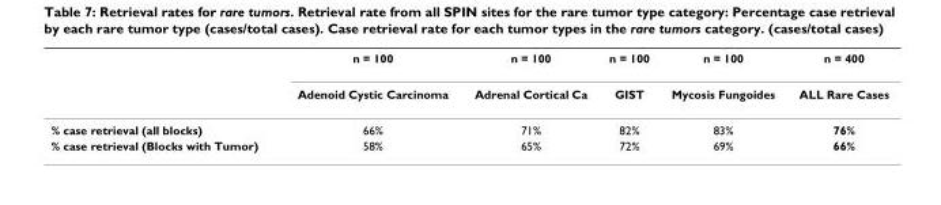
<table><thead><tr><td rowspan="2"></td><td rowspan="2">n = 100 Adenoid Cystic Carcinoma</td><td rowspan="2">n = 100 Adrenal Cortical Ca</td><td rowspan="2">n = 100 GIST</td><td rowspan="2">n = 100 Mycosis Fungoides</td><td rowspan="2">n = 400 ALL Rare Cases</td></tr><tr></tr></thead><tbody><tr><td>% case retrieval (all blocks)</td><td>66%</td><td>71%</td><td>82%</td><td>83%</td><td>76%</td></tr><tr><td>% case retrieval (Blocks with Tumor)</td><td>58%</td><td>65%</td><td>72%</td><td>69%</td><td>66%</td></tr></tbody></table>